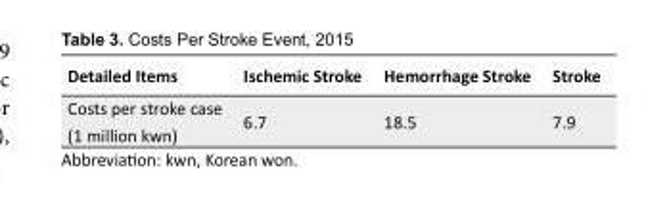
<table><tbody><tr><td>Detailed Items</td><td>Ischemic Stroke</td><td>Hemorrhage Stroke</td><td>Stroke</td></tr><tr><td>Costs per stroke case (1 million kwn)</td><td>6.7</td><td>18.5</td><td>7.9</td></tr></tbody></table>